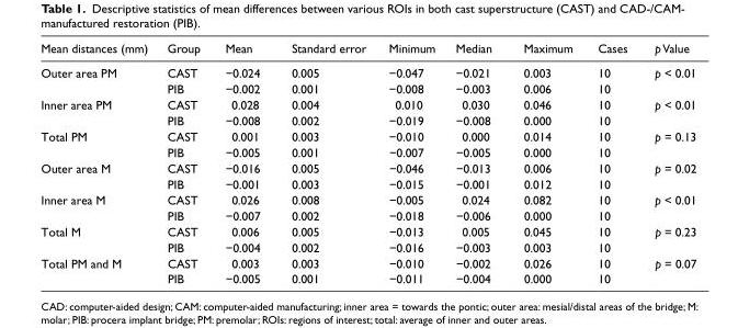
<table><thead><tr><td>Mean distances (mm)</td><td>Group</td><td>Mean</td><td>Standard error</td><td>Minimum</td><td>Median</td><td>Maximum</td><td>Cases</td><td>p Value</td></tr></thead><tbody><tr><td rowspan="2">Outer area PM</td><td>CAST</td><td>−0.024</td><td>0.005</td><td>−0.047</td><td>−0.021</td><td>0.003</td><td>10</td><td>p &lt; 0.01</td></tr><tr><td>PIB</td><td>−0.002</td><td>0.001</td><td>−0.008</td><td>−0.003</td><td>0.006</td><td>10</td><td></td></tr><tr><td rowspan="2">Inner area PM</td><td>CAST</td><td>0.028</td><td>0.004</td><td>0.010</td><td>0.030</td><td>0.046</td><td>10</td><td>p &lt; 0.01</td></tr><tr><td>PIB</td><td>−0.008</td><td>0.002</td><td>−0.019</td><td>−0.008</td><td>0.000</td><td>10</td><td></td></tr><tr><td rowspan="2">Total PM</td><td>CAST</td><td>0.001</td><td>0.003</td><td>−0.010</td><td>0.000</td><td>0.014</td><td>10</td><td>p = 0.13</td></tr><tr><td>PIB</td><td>−0.005</td><td>0.001</td><td>−0.007</td><td>−0.005</td><td>0.000</td><td>10</td><td></td></tr><tr><td rowspan="2">Outer area M</td><td>CAST</td><td>−0.016</td><td>0.005</td><td>−0.046</td><td>−0.013</td><td>0.006</td><td>10</td><td>p = 0.02</td></tr><tr><td>PIB</td><td>−0.001</td><td>0.003</td><td>−0.015</td><td>−0.001</td><td>0.012</td><td>10</td><td></td></tr><tr><td rowspan="2">Inner area M</td><td>CAST</td><td>0.026</td><td>0.008</td><td>−0.005</td><td>0.024</td><td>0.082</td><td>10</td><td>p &lt; 0.01</td></tr><tr><td>PIB</td><td>−0.007</td><td>0.002</td><td>−0.018</td><td>−0.006</td><td>0.000</td><td>10</td><td></td></tr><tr><td rowspan="2">Total M</td><td>CAST</td><td>0.006</td><td>0.005</td><td>−0.013</td><td>0.005</td><td>0.045</td><td>10</td><td>p = 0.23</td></tr><tr><td>PIB</td><td>−0.004</td><td>0.002</td><td>−0.016</td><td>−0.003</td><td>0.003</td><td>10</td><td></td></tr><tr><td rowspan="2">Total PM and M</td><td>CAST</td><td>0.003</td><td>0.003</td><td>−0.010</td><td>−0.002</td><td>0.026</td><td>10</td><td>p = 0.07</td></tr><tr><td>PIB</td><td>−0.005</td><td>0.001</td><td>−0.011</td><td>−0.004</td><td>0.000</td><td>10</td><td></td></tr></tbody></table>